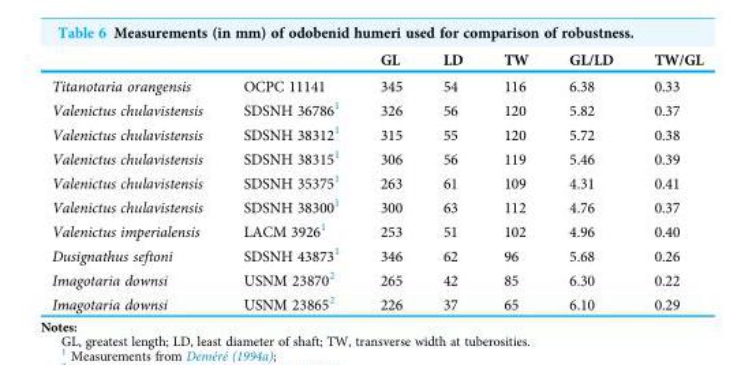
<table><thead><tr><td></td><td></td><td>GL</td><td>LD</td><td>TW</td><td>GL/LD</td><td>TW/GL</td></tr></thead><tbody><tr><td>Titanotaria orangensis</td><td>OCPC 11141</td><td>345</td><td>54</td><td>116</td><td>6.38</td><td>0.33</td></tr><tr><td>Valenictus chulavistensis</td><td>SDSNH 36786<sup>1</sup></td><td>326</td><td>56</td><td>120</td><td>5.82</td><td>0.37</td></tr><tr><td>Valenictus chulavistensis</td><td>SDSNH 38312<sup>1</sup></td><td>315</td><td>55</td><td>120</td><td>5.72</td><td>0.38</td></tr><tr><td>Valenictus chulavistensis</td><td>SDSNH 38315<sup>1</sup></td><td>306</td><td>56</td><td>119</td><td>5.46</td><td>0.39</td></tr><tr><td>Valenictus chulavistensis</td><td>SDSNH 35375<sup>1</sup></td><td>263</td><td>61</td><td>109</td><td>4.31</td><td>0.41</td></tr><tr><td>Valenictus chulavistensis</td><td>SDSNH 38300<sup>1</sup></td><td>300</td><td>63</td><td>112</td><td>4.76</td><td>0.37</td></tr><tr><td>Valenictus imperialensis</td><td>LACM 3926<sup>1</sup></td><td>253</td><td>51</td><td>102</td><td>4.96</td><td>0.40</td></tr><tr><td>Dusignathus seftoni</td><td>SDSNH 43873<sup>1</sup></td><td>346</td><td>62</td><td>96</td><td>5.68</td><td>0.26</td></tr><tr><td>Imagotaria downsi</td><td>USNM 23870<sup>2</sup></td><td>265</td><td>42</td><td>85</td><td>6.30</td><td>0.22</td></tr><tr><td>Imagotaria downsi</td><td>USNM 23865<sup>2</sup></td><td>226</td><td>37</td><td>65</td><td>6.10</td><td>0.29</td></tr></tbody></table>